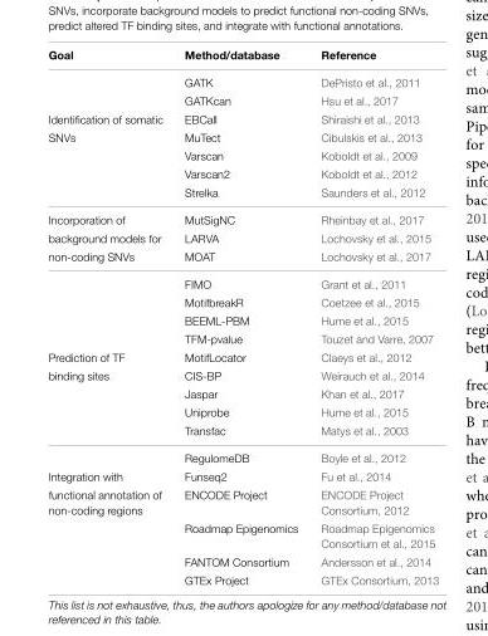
<table><thead><tr><td>Goal</td><td>Method/database</td><td>Reference</td></tr></thead><tbody><tr><td></td><td>GATK</td><td>DePristo et al., 2011</td></tr><tr><td></td><td>GATKcan</td><td>Hsu et al., 2017</td></tr><tr><td>Identification of somatic</td><td>EBCall</td><td>Shiraishi et al., 2013</td></tr><tr><td rowspan="4">SNVs</td><td>MuTect</td><td>Cibulskis et al., 2013</td></tr><tr><td>Varscan</td><td>Koboldt et al., 2009</td></tr><tr><td>Varscan2</td><td>Koboldt et al., 2012</td></tr><tr><td>Strelka</td><td>Saunders et al., 2012</td></tr><tr><td>Incorporation of</td><td>MutSigNC</td><td>Rheinbay et al., 2017</td></tr><tr><td>background models for</td><td>LARVA</td><td>Lochovsky et al., 2015</td></tr><tr><td rowspan="5">non-coding SNVs</td><td>MOAT</td><td>Lochovsky et al., 2017</td></tr><tr><td>FIMO</td><td>Grant et al., 2011</td></tr><tr><td>MotifbreakR</td><td>Coetzee et al., 2015</td></tr><tr><td>BEEML-PBM</td><td>Hume et al., 2015</td></tr><tr><td>TFM-pvalue</td><td>Touzet and Varre, 2007</td></tr><tr><td>Prediction of TF</td><td>MotifLocator</td><td>Claeys et al., 2012</td></tr><tr><td rowspan="5">binding sites</td><td>CIS-BP</td><td>Weirauch et al., 2014</td></tr><tr><td>Jaspar</td><td>Khan et al., 2017</td></tr><tr><td>Uniprobe</td><td>Hume et al., 2015</td></tr><tr><td>Transfac</td><td>Matys et al., 2003</td></tr><tr><td>RegulomeDB</td><td>Boyle et al., 2012</td></tr><tr><td>Integration with</td><td>Funseq2</td><td>Fu et al., 2014</td></tr><tr><td rowspan="4">functional annotation of non-coding regions</td><td>ENCODE Project</td><td>ENCODE Project Consortium, 2012</td></tr><tr><td>Roadmap Epigenomics</td><td>Roadmap Epigenomics Consortium et al., 2015</td></tr><tr><td>FANTOM Consortium</td><td>Andersson et al., 2014</td></tr><tr><td>GTEx Project</td><td>GTEx Consortium, 2013</td></tr></tbody></table>